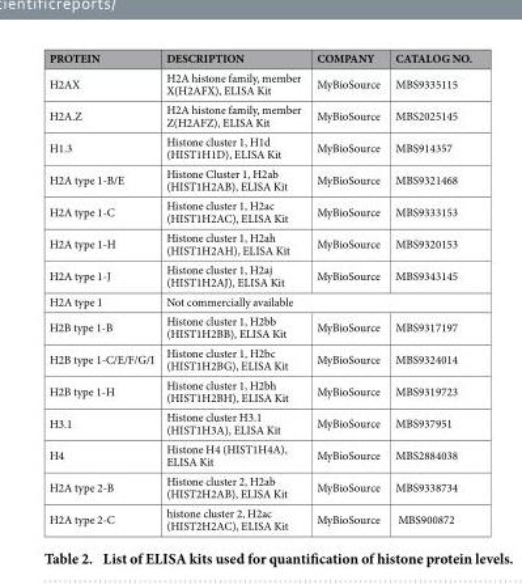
<table><thead><tr><td>PROTEIN</td><td>DESCRIPTION</td><td>COMPANY</td><td>CATALOG NO.</td></tr></thead><tbody><tr><td>H2AX</td><td>H2A histone family, member X(H2AFX), ELISA Kit</td><td>MyBioSource</td><td>MBS9335115</td></tr><tr><td>H2A.Z</td><td>H2A histone family, member Z(H2AFZ), ELISA Kit</td><td>MyBioSource</td><td>MBS2025145</td></tr><tr><td>H1.3</td><td>Histone cluster 1, H1d (HIST1H1D), ELISA Kit</td><td>MyBioSource</td><td>MBS914357</td></tr><tr><td>H2A type 1-B/E</td><td>Histone Cluster 1, H2ab (HIST1H2AB), ELISA Kit</td><td>MyBioSource</td><td>MBS9321468</td></tr><tr><td>H2A type 1-C</td><td>Histone cluster 1, H2ac (HIST1H2AC), ELISA Kit</td><td>MyBioSource</td><td>MBS9333153</td></tr><tr><td>H2A type 1-H</td><td>Histone cluster 1, H2ah (HIST1H2AH), ELISA Kit</td><td>MyBioSource</td><td>MBS9320153</td></tr><tr><td>H2A type 1-J</td><td>Histone cluster 1, H2aj (HIST1H2AJ), ELISA Kit</td><td>MyBioSource</td><td>MBS9343145</td></tr><tr><td>H2A type 1</td><td colspan="3">Not commercially available</td></tr><tr><td>H2B type 1-B</td><td>Histone cluster 1, H2bb (HIST1H2BB), ELISA Kit</td><td>MyBioSource</td><td>MBS9317197</td></tr><tr><td>H2B type 1-C/E/F/G/I</td><td>Histone cluster 1, H2bc (HIST1H2BG), ELISA Kit</td><td>MyBioSource</td><td>MBS9324014</td></tr><tr><td>H2B type 1-H</td><td>Histone cluster 1, H2bh (HIST1H2BH), ELISA Kit</td><td>MyBioSource</td><td>MBS9319723</td></tr><tr><td>H3.1</td><td>Histone cluster H3.1 (HIST1H3A), ELISA Kit</td><td>MyBioSource</td><td>MBS937951</td></tr><tr><td>H4</td><td>Histone H4 (HIST1H4A), ELISA Kit</td><td>MyBioSource</td><td>MBS2884038</td></tr><tr><td>H2A type 2-B</td><td>Histone cluster 2, H2ab (HIST2H2AB), ELISA Kit</td><td>MyBioSource</td><td>MBS9338734</td></tr><tr><td>H2A type 2-C</td><td>histone cluster 2, H2ac (HIST2H2AC), ELISA Kit</td><td>MyBioSource</td><td>MBS900872</td></tr></tbody></table>